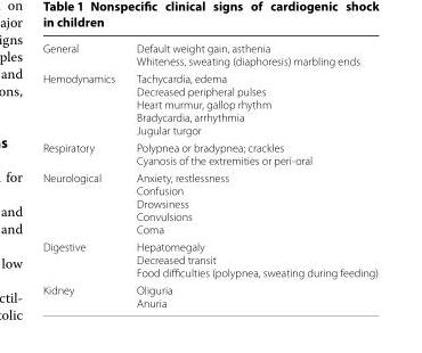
<table><tbody><tr><td>General</td><td>Default weight gain, asthenia Whiteness, sweating (diaphoresis) marbling ends</td></tr><tr><td>Hemodynamics</td><td>Tachycardia, edema Decreased peripheral pulses Heart murmur, gallop rhythm Bradycardia, arrhythmia Jugular turgor</td></tr><tr><td>Respiratory</td><td>Polypnea or bradypnea; crackles Cyanosis of the extremities or peri‑oral</td></tr><tr><td>Neurological</td><td>Anxiety, restlessness Confusion Drowsiness Convulsions Coma</td></tr><tr><td>Digestive</td><td>Hepatomegaly Decreased transit Food difficulties (polypnea, sweating during feeding)</td></tr><tr><td>Kidney</td><td>Oliguria Anuria</td></tr></tbody></table>